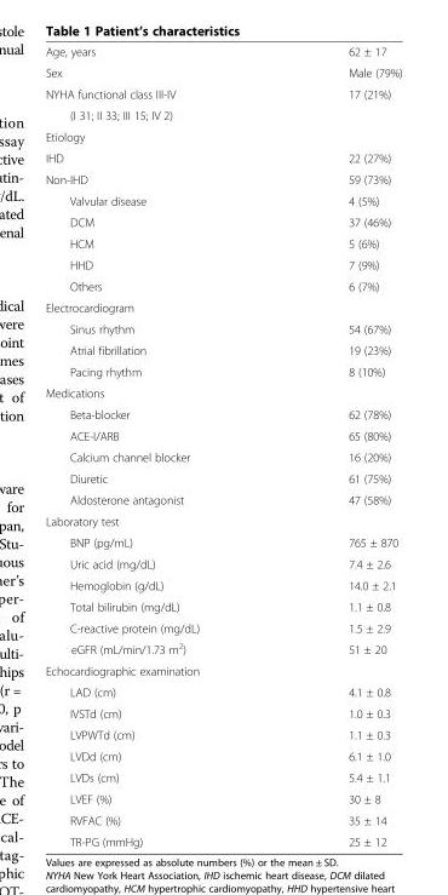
<table><tbody><tr><td>Age, years</td><td>62 ± 17</td></tr><tr><td>Sex</td><td>Male (79%)</td></tr><tr><td>NYHA functional class III-IV</td><td>17 (21%)</td></tr><tr><td colspan="2">(I 31; II 33; III 15; IV 2)</td></tr><tr><td colspan="2">Etiology</td></tr><tr><td>IHD</td><td>22 (27%)</td></tr><tr><td>Non-IHD</td><td>59 (73%)</td></tr><tr><td>Valvular disease</td><td>4 (5%)</td></tr><tr><td>DCM</td><td>37 (46%)</td></tr><tr><td>HCM</td><td>5 (6%)</td></tr><tr><td>HHD</td><td>7 (9%)</td></tr><tr><td>Others</td><td>6 (7%)</td></tr><tr><td colspan="2">Electrocardiogram</td></tr><tr><td>Sinus rhythm</td><td>54 (67%)</td></tr><tr><td>Atrial fibrillation</td><td>19 (23%)</td></tr><tr><td>Pacing rhythm</td><td>8 (10%)</td></tr><tr><td colspan="2">Medications</td></tr><tr><td>Beta-blocker</td><td>62 (78%)</td></tr><tr><td>ACE-I/ARB</td><td>65 (80%)</td></tr><tr><td>Calcium channel blocker</td><td>16 (20%)</td></tr><tr><td>Diuretic</td><td>61 (75%)</td></tr><tr><td>Aldosterone antagonist</td><td>47 (58%)</td></tr><tr><td colspan="2">Laboratory test</td></tr><tr><td>BNP (pg/mL)</td><td>765 ± 870</td></tr><tr><td>Uric acid (mg/dL)</td><td>7.4 ± 2.6</td></tr><tr><td>Hemoglobin (g/dL)</td><td>14.0 ± 2.1</td></tr><tr><td>Total bilirubin (mg/dL)</td><td>1.1 ± 0.8</td></tr><tr><td>C-reactive protein (mg/dL)</td><td>1.5 ± 2.9</td></tr><tr><td>eGFR (mL/min/1.73 m<sup>2</sup>)</td><td>51 ± 20</td></tr><tr><td colspan="2">Echocardiographic examination</td></tr><tr><td>LAD (cm)</td><td>4.1 ± 0.8</td></tr><tr><td>IVSTd (cm)</td><td>1.0 ± 0.3</td></tr><tr><td>LVPWTd (cm)</td><td>1.1 ± 0.3</td></tr><tr><td>LVDd (cm)</td><td>6.1 ± 1.0</td></tr><tr><td>LVDs (cm)</td><td>5.4 ± 1.1</td></tr><tr><td>LVEF (%)</td><td>30 ± 8</td></tr><tr><td>RVFAC (%)</td><td>35 ± 14</td></tr><tr><td>TR-PG (mmHg)</td><td>25 ± 12</td></tr></tbody></table>